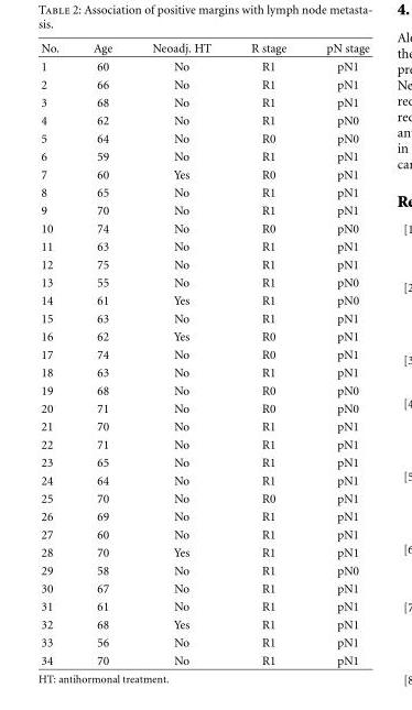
<table><thead><tr><td>No.</td><td>Age</td><td>Neoadj. HT</td><td>R stage</td><td>pN stage</td></tr></thead><tbody><tr><td>1</td><td>60</td><td>No</td><td>R1</td><td>pN1</td></tr><tr><td>2</td><td>66</td><td>No</td><td>R1</td><td>pN1</td></tr><tr><td>3</td><td>68</td><td>No</td><td>R1</td><td>pN1</td></tr><tr><td>4</td><td>62</td><td>No</td><td>R1</td><td>pN0</td></tr><tr><td>5</td><td>64</td><td>No</td><td>R0</td><td>pN0</td></tr><tr><td>6</td><td>59</td><td>No</td><td>R1</td><td>pN1</td></tr><tr><td>7</td><td>60</td><td>Yes</td><td>R0</td><td>pN1</td></tr><tr><td>8</td><td>65</td><td>No</td><td>R1</td><td>pN1</td></tr><tr><td>9</td><td>70</td><td>No</td><td>R1</td><td>pN1</td></tr><tr><td>10</td><td>74</td><td>No</td><td>R0</td><td>pN0</td></tr><tr><td>11</td><td>63</td><td>No</td><td>R1</td><td>pN1</td></tr><tr><td>12</td><td>75</td><td>No</td><td>R1</td><td>pN1</td></tr><tr><td>13</td><td>55</td><td>No</td><td>R1</td><td>pN0</td></tr><tr><td>14</td><td>61</td><td>Yes</td><td>R1</td><td>pN0</td></tr><tr><td>15</td><td>63</td><td>No</td><td>R1</td><td>pN1</td></tr><tr><td>16</td><td>62</td><td>Yes</td><td>R0</td><td>pN1</td></tr><tr><td>17</td><td>74</td><td>No</td><td>R0</td><td>pN1</td></tr><tr><td>18</td><td>63</td><td>No</td><td>R1</td><td>pN1</td></tr><tr><td>19</td><td>68</td><td>No</td><td>R0</td><td>pN0</td></tr><tr><td>20</td><td>71</td><td>No</td><td>R0</td><td>pN0</td></tr><tr><td>21</td><td>70</td><td>No</td><td>R1</td><td>pN1</td></tr><tr><td>22</td><td>71</td><td>No</td><td>R1</td><td>pN1</td></tr><tr><td>23</td><td>65</td><td>No</td><td>R1</td><td>pN1</td></tr><tr><td>24</td><td>64</td><td>No</td><td>R1</td><td>pN1</td></tr><tr><td>25</td><td>70</td><td>No</td><td>R0</td><td>pN1</td></tr><tr><td>26</td><td>69</td><td>No</td><td>R1</td><td>pN1</td></tr><tr><td>27</td><td>60</td><td>No</td><td>R1</td><td>pN1</td></tr><tr><td>28</td><td>70</td><td>Yes</td><td>R1</td><td>pN1</td></tr><tr><td>29</td><td>58</td><td>No</td><td>R1</td><td>pN0</td></tr><tr><td>30</td><td>67</td><td>No</td><td>R1</td><td>pN1</td></tr><tr><td>31</td><td>61</td><td>No</td><td>R1</td><td>pN1</td></tr><tr><td>32</td><td>68</td><td>Yes</td><td>R1</td><td>pN1</td></tr><tr><td>33</td><td>56</td><td>No</td><td>R1</td><td>pN1</td></tr><tr><td>34</td><td>70</td><td>No</td><td>R1</td><td>pN1</td></tr></tbody></table>